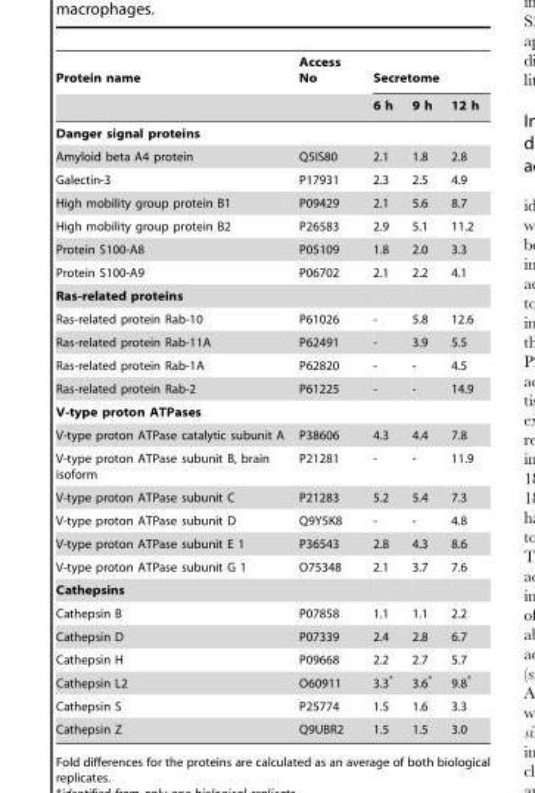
<table><thead><tr><td rowspan="2">Protein name</td><td rowspan="2">Access No</td><td colspan="3">Secretome</td></tr><tr><td>6 h</td><td>9 h</td><td>12 h</td></tr></thead><tbody><tr><td colspan="5">Danger signal proteins</td></tr><tr><td>Amyloid beta A4 protein</td><td>Q5IS80</td><td>2.1</td><td>1.8</td><td>2.8</td></tr><tr><td>Galectin-3</td><td>P17931</td><td>2.3</td><td>2.5</td><td>4.9</td></tr><tr><td>High mobility group protein B1</td><td>P09429</td><td>2.1</td><td>5.6</td><td>8.7</td></tr><tr><td>High mobility group protein B2</td><td>P26583</td><td>2.9</td><td>5.1</td><td>11.2</td></tr><tr><td>Protein S100-A8</td><td>P05109</td><td>1.8</td><td>2.0</td><td>3.3</td></tr><tr><td>Protein S100-A9</td><td>P06702</td><td>2.1</td><td>2.2</td><td>4.1</td></tr><tr><td colspan="5">Ras-related proteins</td></tr><tr><td>Ras-related protein Rab-10</td><td>P61026</td><td>-</td><td>5.8</td><td>12.6</td></tr><tr><td>Ras-related protein Rab-11A</td><td>P62491</td><td>-</td><td>3.9</td><td>5.5</td></tr><tr><td>Ras-related protein Rab-1A</td><td>P62820</td><td>-</td><td>-</td><td>4.5</td></tr><tr><td>Ras-related protein Rab-2</td><td>P61225</td><td>-</td><td>-</td><td>14.9</td></tr><tr><td colspan="5">V-type proton ATPases</td></tr><tr><td>V-type proton ATPase catalytic subunit A</td><td>P38606</td><td>4.3</td><td>4.4</td><td>7.8</td></tr><tr><td>V-type proton ATPase subunit B, brain isoform</td><td>P21281</td><td>-</td><td>-</td><td>11.9</td></tr><tr><td>V-type proton ATPase subunit C</td><td>P21283</td><td>5.2</td><td>5.4</td><td>7.3</td></tr><tr><td>V-type proton ATPase subunit D</td><td>Q9Y5K8</td><td>-</td><td>-</td><td>4.8</td></tr><tr><td>V-type proton ATPase subunit E 1</td><td>P36543</td><td>2.8</td><td>4.3</td><td>8.6</td></tr><tr><td>V-type proton ATPase subunit G 1</td><td>O75348</td><td>2.1</td><td>3.7</td><td>7.6</td></tr><tr><td colspan="5">Cathepsins</td></tr><tr><td>Cathepsin B</td><td>P07858</td><td>1.1</td><td>1.1</td><td>2.2</td></tr><tr><td>Cathepsin D</td><td>P07339</td><td>2.4</td><td>2.8</td><td>6.7</td></tr><tr><td>Cathepsin H</td><td>P09668</td><td>2.2</td><td>2.7</td><td>5.7</td></tr><tr><td>Cathepsin L2</td><td>O60911</td><td>3.3*</td><td>3.6*</td><td>9.8*</td></tr><tr><td>Cathepsin S</td><td>P25774</td><td>1.5</td><td>1.6</td><td>3.3</td></tr><tr><td>Cathepsin Z</td><td>Q9UBR2</td><td>1.5</td><td>1.5</td><td>3.0</td></tr></tbody></table>